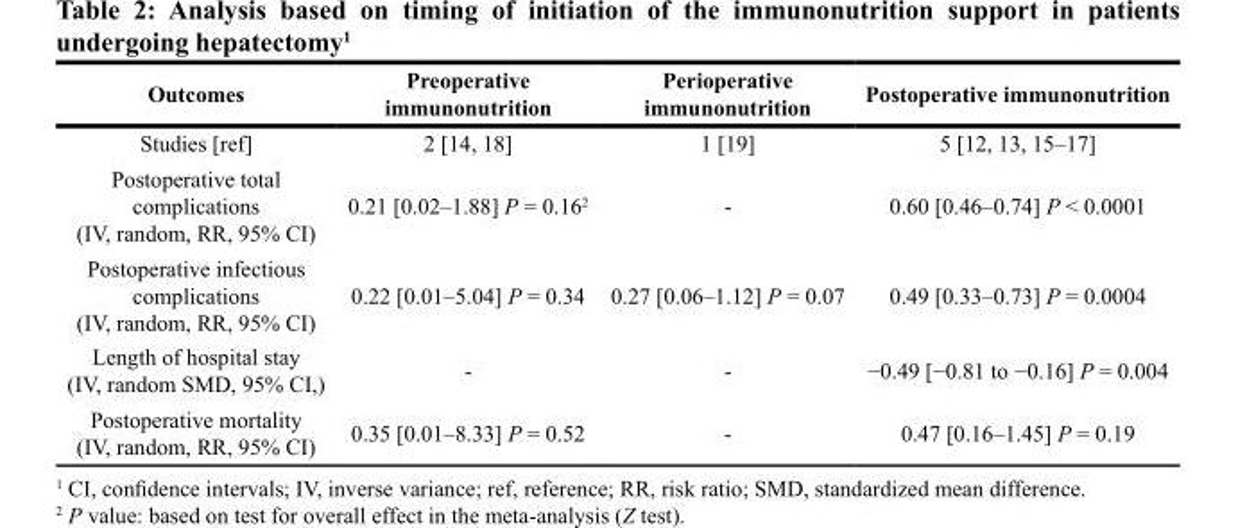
<table><thead><tr><td>Outcomes</td><td>Preoperative immunonutrition</td><td>Perioperative immunonutrition</td><td>Postoperative immunonutrition</td></tr></thead><tbody><tr><td>Studies [ref]</td><td>2 [14, 18]</td><td>1 [19]</td><td>5 [12, 13, 15–17]</td></tr><tr><td>Postoperative total complications (IV, random, RR, 95% CI)</td><td>0.21 [0.02–1.88] P = 0.16<sup>2</sup></td><td>-</td><td>0.60 [0.46–0.74] P &lt; 0.0001</td></tr><tr><td>Postoperative infectious complications (IV, random, RR, 95% CI)</td><td>0.22 [0.01–5.04] P = 0.34</td><td>0.27 [0.06–1.12] P = 0.07</td><td>0.49 [0.33–0.73] P = 0.0004</td></tr><tr><td>Length of hospital stay (IV, random SMD, 95% CI,)</td><td>-</td><td>-</td><td>−0.49 [−0.81 to −0.16] P = 0.004</td></tr><tr><td>Postoperative mortality (IV, random, RR, 95% CI)</td><td>0.35 [0.01–8.33] P = 0.52</td><td>-</td><td>0.47 [0.16–1.45] P = 0.19</td></tr></tbody></table>